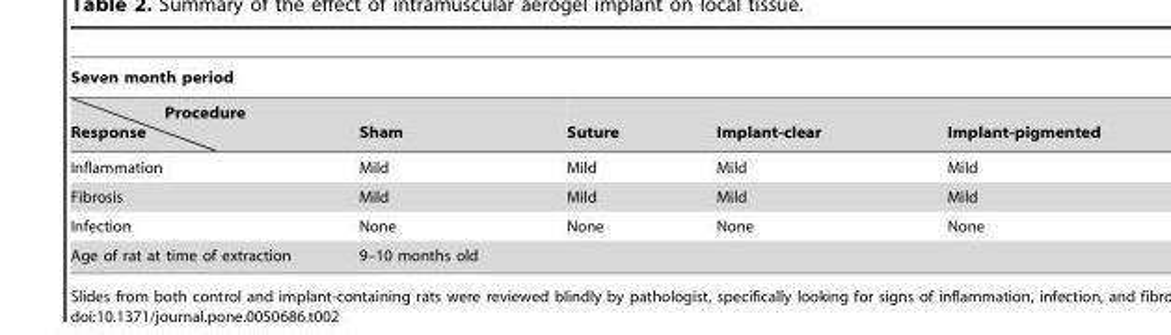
<table><thead><tr><td colspan="5">Seven month period</td></tr><tr><td>Procedure Response</td><td>Sham</td><td>Suture</td><td>Implant-clear</td><td>Implant-pigmented</td></tr></thead><tbody><tr><td>Inflammation</td><td>Mild</td><td>Mild</td><td>Mild</td><td>Mild</td></tr><tr><td>Fibrosis</td><td>Mild</td><td>Mild</td><td>Mild</td><td>Mild</td></tr><tr><td>Infection</td><td>None</td><td>None</td><td>None</td><td>None</td></tr><tr><td>Age of rat at time of extraction</td><td colspan="4">9–10 months old</td></tr></tbody></table>